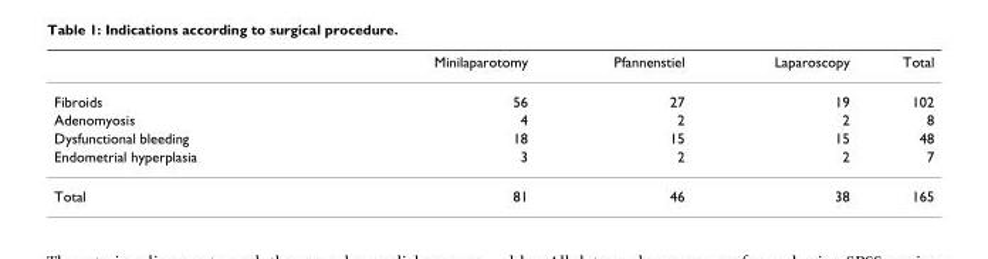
<table><thead><tr><td></td><td>Minilaparotomy</td><td>Pfannenstiel</td><td>Laparoscopy</td><td>Total</td></tr></thead><tbody><tr><td>Fibroids</td><td>56</td><td>27</td><td>19</td><td>102</td></tr><tr><td>Adenomyosis</td><td>4</td><td>2</td><td>2</td><td>8</td></tr><tr><td>Dysfunctional bleeding</td><td>18</td><td>15</td><td>15</td><td>48</td></tr><tr><td>Endometrial hyperplasia</td><td>3</td><td>2</td><td>2</td><td>7</td></tr><tr><td>Total</td><td>81</td><td>46</td><td>38</td><td>165</td></tr></tbody></table>